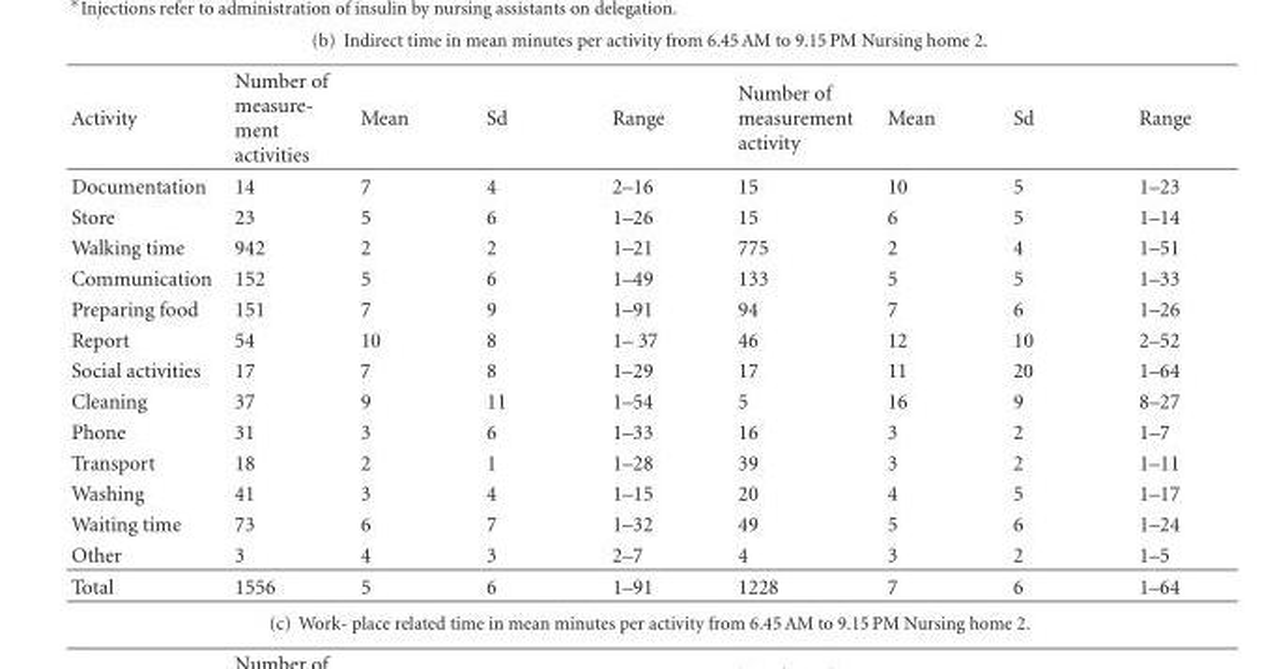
<table><thead><tr><td>Activity</td><td>Number of measure- ment activities</td><td>Mean</td><td>Sd</td><td>Range</td><td>Number of measurement activity</td><td>Mean</td><td>Sd</td><td>Range</td></tr></thead><tbody><tr><td>Documentation</td><td>14</td><td>7</td><td>4</td><td>2–16</td><td>15</td><td>10</td><td>5</td><td>1–23</td></tr><tr><td>Store</td><td>23</td><td>5</td><td>6</td><td>1–26</td><td>15</td><td>6</td><td>5</td><td>1–14</td></tr><tr><td>Walking time</td><td>942</td><td>2</td><td>2</td><td>1–21</td><td>775</td><td>2</td><td>4</td><td>1–51</td></tr><tr><td>Communication</td><td>152</td><td>5</td><td>6</td><td>1–49</td><td>133</td><td>5</td><td>5</td><td>1–33</td></tr><tr><td>Preparing food</td><td>151</td><td>7</td><td>9</td><td>1–91</td><td>94</td><td>7</td><td>6</td><td>1–26</td></tr><tr><td>Report</td><td>54</td><td>10</td><td>8</td><td>1– 37</td><td>46</td><td>12</td><td>10</td><td>2–52</td></tr><tr><td>Social activities</td><td>17</td><td>7</td><td>8</td><td>1–29</td><td>17</td><td>11</td><td>20</td><td>1–64</td></tr><tr><td>Cleaning</td><td>37</td><td>9</td><td>11</td><td>1–54</td><td>5</td><td>16</td><td>9</td><td>8–27</td></tr><tr><td>Phone</td><td>31</td><td>3</td><td>6</td><td>1–33</td><td>16</td><td>3</td><td>2</td><td>1–7</td></tr><tr><td>Transport</td><td>18</td><td>2</td><td>1</td><td>1–28</td><td>39</td><td>3</td><td>2</td><td>1–11</td></tr><tr><td>Washing</td><td>41</td><td>3</td><td>4</td><td>1–15</td><td>20</td><td>4</td><td>5</td><td>1–17</td></tr><tr><td>Waiting time</td><td>73</td><td>6</td><td>7</td><td>1–32</td><td>49</td><td>5</td><td>6</td><td>1–24</td></tr><tr><td>Other</td><td>3</td><td>4</td><td>3</td><td>2–7</td><td>4</td><td>3</td><td>2</td><td>1–5</td></tr><tr><td>Total</td><td>1556</td><td>5</td><td>6</td><td>1–91</td><td>1228</td><td>7</td><td>6</td><td>1–64</td></tr></tbody></table>